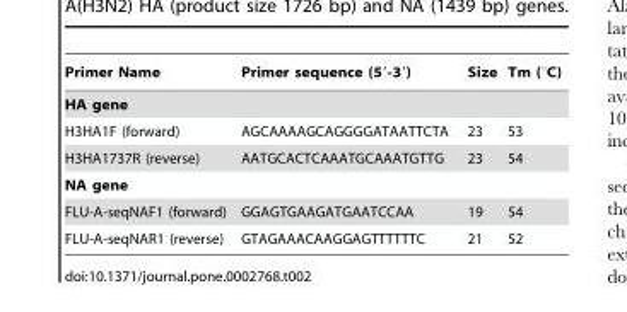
<table><thead><tr><td>Primer Name</td><td>Primer sequence (5′-3′)</td><td>Size</td><td>Tm (°C)</td></tr></thead><tbody><tr><td colspan="4">HA gene</td></tr><tr><td>H3HA1F (forward)</td><td>AGCAAAAGCAGGGGATAATTCTA</td><td>23</td><td>53</td></tr><tr><td>H3HA1737R (reverse)</td><td>AATGCACTCAAATGCAAATGTTG</td><td>23</td><td>54</td></tr><tr><td colspan="4">NA gene</td></tr><tr><td>FLU-A-seqNAF1 (forward)</td><td>GGAGTGAAGATGAATCCAA</td><td>19</td><td>54</td></tr><tr><td>FLU-A-seqNAR1 (reverse)</td><td>GTAGAAACAAGGAGTTTTTTC</td><td>21</td><td>52</td></tr></tbody></table>